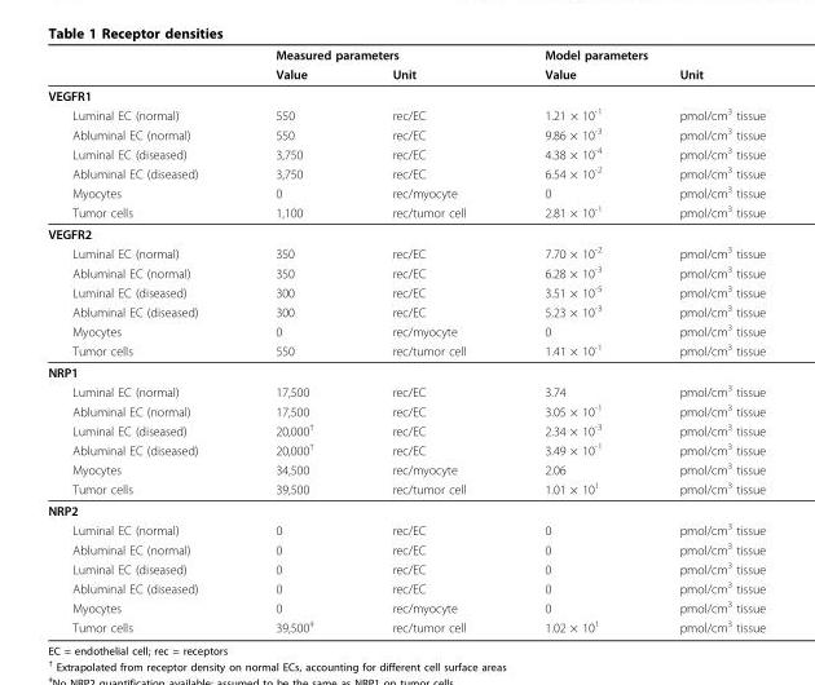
<table><thead><tr><td rowspan="2"></td><td colspan="2">Measured parameters</td><td colspan="2">Model parameters</td></tr><tr><td>Value</td><td>Unit</td><td>Value</td><td>Unit</td></tr></thead><tbody><tr><td colspan="5">VEGFR1</td></tr><tr><td>Luminal EC (normal)</td><td>550</td><td>rec/EC</td><td>1.21 × 10<sup>-1</sup></td><td>pmol/cm<sup>3</sup> tissue</td></tr><tr><td>Abluminal EC (normal)</td><td>550</td><td>rec/EC</td><td>9.86 × 10<sup>-3</sup></td><td>pmol/cm<sup>3</sup> tissue</td></tr><tr><td>Luminal EC (diseased)</td><td>3,750</td><td>rec/EC</td><td>4.38 × 10<sup>-4</sup></td><td>pmol/cm<sup>3</sup> tissue</td></tr><tr><td>Abluminal EC (diseased)</td><td>3,750</td><td>rec/EC</td><td>6.54 × 10<sup>-2</sup></td><td>pmol/cm<sup>3</sup> tissue</td></tr><tr><td>Myocytes</td><td>0</td><td>rec/myocyte</td><td>0</td><td>pmol/cm<sup>3</sup> tissue</td></tr><tr><td>Tumor cells</td><td>1,100</td><td>rec/tumor cell</td><td>2.81 × 10<sup>-1</sup></td><td>pmol/cm<sup>3</sup> tissue</td></tr><tr><td colspan="5">VEGFR2</td></tr><tr><td>Luminal EC (normal)</td><td>350</td><td>rec/EC</td><td>7.70 × 10<sup>-2</sup></td><td>pmol/cm<sup>3</sup> tissue</td></tr><tr><td>Abluminal EC (normal)</td><td>350</td><td>rec/EC</td><td>6.28 × 10<sup>-3</sup></td><td>pmol/cm<sup>3</sup> tissue</td></tr><tr><td>Luminal EC (diseased)</td><td>300</td><td>rec/EC</td><td>3.51 × 10<sup>-5</sup></td><td>pmol/cm<sup>3</sup> tissue</td></tr><tr><td>Abluminal EC (diseased)</td><td>300</td><td>rec/EC</td><td>5.23 × 10<sup>-3</sup></td><td>pmol/cm<sup>3</sup> tissue</td></tr><tr><td>Myocytes</td><td>0</td><td>rec/myocyte</td><td>0</td><td>pmol/cm<sup>3</sup> tissue</td></tr><tr><td>Tumor cells</td><td>550</td><td>rec/tumor cell</td><td>1.41 × 10<sup>-1</sup></td><td>pmol/cm<sup>3</sup> tissue</td></tr><tr><td colspan="5">NRP1</td></tr><tr><td>Luminal EC (normal)</td><td>17,500</td><td>rec/EC</td><td>3.74</td><td>pmol/cm<sup>3</sup> tissue</td></tr><tr><td>Abluminal EC (normal)</td><td>17,500</td><td>rec/EC</td><td>3.05 × 10<sup>-1</sup></td><td>pmol/cm<sup>3</sup> tissue</td></tr><tr><td>Luminal EC (diseased)</td><td>20,000<sup>†</sup></td><td>rec/EC</td><td>2.34 × 10<sup>-3</sup></td><td>pmol/cm<sup>3</sup> tissue</td></tr><tr><td>Abluminal EC (diseased)</td><td>20,000<sup>†</sup></td><td>rec/EC</td><td>3.49 × 10<sup>-1</sup></td><td>pmol/cm<sup>3</sup> tissue</td></tr><tr><td>Myocytes</td><td>34,500</td><td>rec/myocyte</td><td>2.06</td><td>pmol/cm<sup>3</sup> tissue</td></tr><tr><td>Tumor cells</td><td>39,500</td><td>rec/tumor cell</td><td>1.01 × 10<sup>1</sup></td><td>pmol/cm<sup>3</sup> tissue</td></tr><tr><td colspan="5">NRP2</td></tr><tr><td>Luminal EC (normal)</td><td>0</td><td>rec/EC</td><td>0</td><td>pmol/cm<sup>3</sup> tissue</td></tr><tr><td>Abluminal EC (normal)</td><td>0</td><td>rec/EC</td><td>0</td><td>pmol/cm<sup>3</sup> tissue</td></tr><tr><td>Luminal EC (diseased)</td><td>0</td><td>rec/EC</td><td>0</td><td>pmol/cm<sup>3</sup> tissue</td></tr><tr><td>Abluminal EC (diseased)</td><td>0</td><td>rec/EC</td><td>0</td><td>pmol/cm<sup>3</sup> tissue</td></tr><tr><td>Myocytes</td><td>0</td><td>rec/myocyte</td><td>0</td><td>pmol/cm<sup>3</sup> tissue</td></tr><tr><td>Tumor cells</td><td>39,500<sup>‡</sup></td><td>rec/tumor cell</td><td>1.02 × 10<sup>1</sup></td><td>pmol/cm<sup>3</sup> tissue</td></tr></tbody></table>